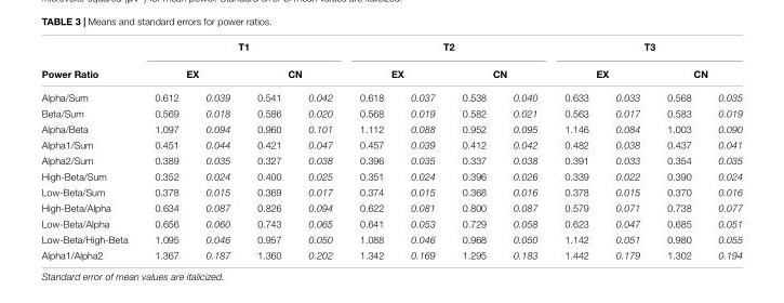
<table><thead><tr><td rowspan="3">Power Ratio Alpha/Sum</td><td colspan="4">T1</td><td colspan="4">T2</td><td colspan="4">T3</td></tr><tr><td colspan="2">EX</td><td colspan="2">CN</td><td colspan="2">EX</td><td colspan="2">CN</td><td colspan="2">EX</td><td colspan="2">CN</td></tr><tr><td>0.612</td><td>0.039</td><td>0.541</td><td>0.042</td><td>0.618</td><td>0.037</td><td>0.538</td><td>0.040</td><td>0.633</td><td>0.033</td><td>0.568</td><td>0.035</td></tr></thead><tbody><tr><td>Beta/Sum</td><td>0.569</td><td>0.018</td><td>0.586</td><td>0.020</td><td>0.568</td><td>0.019</td><td>0.582</td><td>0.021</td><td>0.563</td><td>0.017</td><td>0.583</td><td>0.019</td></tr><tr><td>Alpha/Beta</td><td>1.097</td><td>0.094</td><td>0.960</td><td>0.101</td><td>1.112</td><td>0.088</td><td>0.952</td><td>0.095</td><td>1.146</td><td>0.084</td><td>1.003</td><td>0.090</td></tr><tr><td>Alpha1/Sum</td><td>0.451</td><td>0.044</td><td>0.421</td><td>0.047</td><td>0.457</td><td>0.039</td><td>0.412</td><td>0.042</td><td>0.482</td><td>0.038</td><td>0.437</td><td>0.041</td></tr><tr><td>Alpha2/Sum</td><td>0.389</td><td>0.035</td><td>0.327</td><td>0.038</td><td>0.396</td><td>0.035</td><td>0.337</td><td>0.038</td><td>0.391</td><td>0.033</td><td>0.354</td><td>0.035</td></tr><tr><td>High-Beta/Sum</td><td>0.352</td><td>0.024</td><td>0.400</td><td>0.025</td><td>0.351</td><td>0.024</td><td>0.396</td><td>0.026</td><td>0.339</td><td>0.022</td><td>0.390</td><td>0.024</td></tr><tr><td>Low-Beta/Sum</td><td>0.378</td><td>0.015</td><td>0.369</td><td>0.017</td><td>0.374</td><td>0.015</td><td>0.368</td><td>0.016</td><td>0.378</td><td>0.015</td><td>0.370</td><td>0.016</td></tr><tr><td>High-Beta/Alpha</td><td>0.634</td><td>0.087</td><td>0.826</td><td>0.094</td><td>0.622</td><td>0.081</td><td>0.800</td><td>0.087</td><td>0.579</td><td>0.071</td><td>0.738</td><td>0.077</td></tr><tr><td>Low-Beta/Alpha</td><td>0.656</td><td>0.060</td><td>0.743</td><td>0.065</td><td>0.641</td><td>0.053</td><td>0.729</td><td>0.058</td><td>0.623</td><td>0.047</td><td>0.685</td><td>0.051</td></tr><tr><td>Low-Beta/High-Beta</td><td>1.095</td><td>0.046</td><td>0.957</td><td>0.050</td><td>1.088</td><td>0.046</td><td>0.968</td><td>0.050</td><td>1.142</td><td>0.051</td><td>0.980</td><td>0.055</td></tr><tr><td>Alpha1/Alpha2</td><td>1.367</td><td>0.187</td><td>1.360</td><td>0.202</td><td>1.342</td><td>0.169</td><td>1.295</td><td>0.183</td><td>1.442</td><td>0.179</td><td>1.302</td><td>0.194</td></tr></tbody></table>